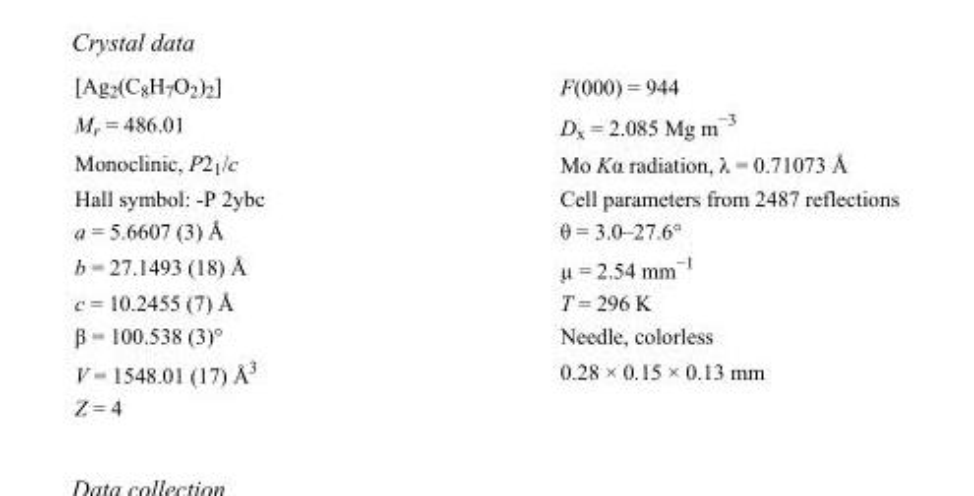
<table><tbody><tr><td>[Ag<sub>2</sub>(C<sub>8</sub>H<sub>7</sub>O<sub>2</sub>)<sub>2</sub>]</td><td>F(000) = 944</td></tr><tr><td>M<sub>r</sub> = 486.01</td><td>D<sub>x</sub> = 2.085 Mg m<sup>−3</sup></td></tr><tr><td>Monoclinic, P2<sub>1</sub>/c</td><td>Mo Kα radiation, λ = 0.71073 Å</td></tr><tr><td>Hall symbol: -P 2ybc</td><td>Cell parameters from 2487 reflections</td></tr><tr><td>a = 5.6607 (3) Å</td><td>θ = 3.0–27.6°</td></tr><tr><td>b = 27.1493 (18) Å</td><td>µ = 2.54 mm<sup>−1</sup></td></tr><tr><td>c = 10.2455 (7) Å</td><td>T = 296 K</td></tr><tr><td>β = 100.538 (3)°</td><td>Needle, colorless</td></tr><tr><td>V = 1548.01 (17) Å<sup>3</sup></td><td>0.28 × 0.15 × 0.13 mm</td></tr><tr><td>Z = 4</td><td></td></tr></tbody></table>